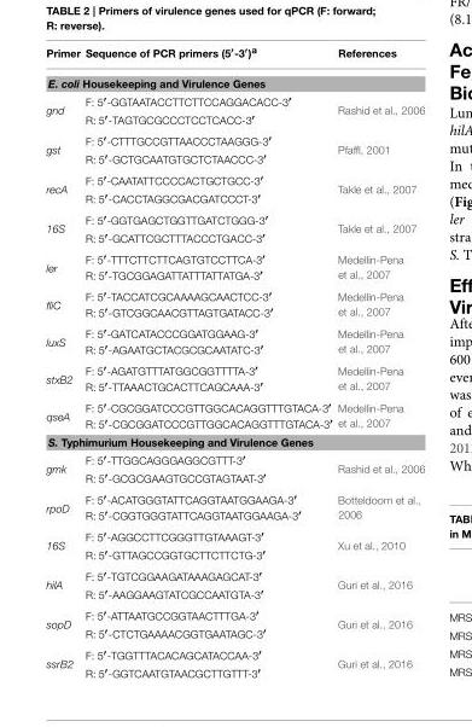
<table><thead><tr><td>Primer</td><td>Sequence of PCR primers (5′-3′)<sup>a</sup></td><td>References</td></tr></thead><tbody><tr><td colspan="3">E. coli Housekeeping and Virulence Genes</td></tr><tr><td rowspan="2">gnd</td><td>F: 5′-GGTAATACCTTCTTCCAGGACACC-3′</td><td rowspan="2">Rashid et al., 2006</td></tr><tr><td>R: 5′-TAGTGCGCCCTCCTCACC-3′</td></tr><tr><td rowspan="2">gst</td><td>F: 5′-CTTTGCCGTTAACCCTAAGGG-3′</td><td rowspan="2">Pfaffl, 2001</td></tr><tr><td>R: 5′-GCTGCAATGTGCTCTAACCC-3′</td></tr><tr><td rowspan="2">recA</td><td>F: 5′-CAATATTCCCCACTGCTGCC-3′</td><td rowspan="2">Takle et al., 2007</td></tr><tr><td>R: 5′-CACCTAGGCGACGATCCCT-3′</td></tr><tr><td rowspan="2">16S</td><td>F: 5′-GGTGAGCTGGTTGATCTGGG-3′</td><td rowspan="2">Takle et al., 2007</td></tr><tr><td>R: 5′-GCATTCGCTTTACCCTGACC-3′</td></tr><tr><td rowspan="2">ler</td><td>F: 5′-TTTCTTCTTCAGTGTCCTTCA-3′</td><td rowspan="2">Medellin-Pena et al., 2007</td></tr><tr><td>R: 5′-TGCGGAGATTATTTATTATGA-3′</td></tr><tr><td rowspan="2">fliC</td><td>F: 5′-TACCATCGCAAAAGCAACTCC-3′</td><td rowspan="2">Medellin-Pena et al., 2007</td></tr><tr><td>R: 5′-GTCGGCAACGTTAGTGATACC-3′</td></tr><tr><td rowspan="2">luxS</td><td>F: 5′-GATCATACCCGGATGGAAG-3′</td><td rowspan="2">Medellin-Pena et al., 2007</td></tr><tr><td>R: 5′-AGAATGCTACGCGCAATATC-3′</td></tr><tr><td rowspan="2">stxB2</td><td>F: 5′-AGATGTTTATGGCGGTTTTA-3′</td><td rowspan="2">Medellin-Pena et al., 2007</td></tr><tr><td>R: 5′-TTAAACTGCACTTCAGCAAA-3′</td></tr><tr><td rowspan="2">qseA</td><td>F: 5′-CGCGGATCCCGTTGGCACAGGTTTGTACA-3′</td><td rowspan="2">Medellin-Pena et al., 2007</td></tr><tr><td>R: 5′-CGCGGATCCCGTTGGCACAGGTTTGTACA-3′</td></tr><tr><td colspan="3">S. Typhimurium Housekeeping and Virulence Genes</td></tr><tr><td rowspan="2">gmk</td><td>F: 5′-TTGGCAGGGAGGCGTTT-3′</td><td rowspan="2">Rashid et al., 2006</td></tr><tr><td>R: 5′-GCGCGAAGTGCCGTAGTAAT-3′</td></tr><tr><td rowspan="2">rpoD</td><td>F: 5′-ACATGGGTATTCAGGTAATGGAAGA-3′</td><td rowspan="2">Botteldoorn et al., 2006</td></tr><tr><td>R: 5′-CGGTGGGTATTCAGGTAATGGAAGA-3′</td></tr><tr><td rowspan="2">16S</td><td>F: 5′-AGGCCTTCGGGTTGTAAAGT-3′</td><td rowspan="2">Xu et al., 2010</td></tr><tr><td>R: 5′-GTTAGCCGGTGCTTCTTCTG-3′</td></tr><tr><td rowspan="2">hilA</td><td>F: 5′-TGTCGGAAGATAAAGAGCAT-3′</td><td rowspan="2">Guri et al., 2016</td></tr><tr><td>R: 5′-AAGGAAGTATCGCCAATGTA-3′</td></tr><tr><td rowspan="2">sopD</td><td>F: 5′-ATTAATGCCGGTAACTTTGA-3′</td><td rowspan="2">Guri et al., 2016</td></tr><tr><td>R: 5′-CTCTGAAAACGGTGAATAGC-3′</td></tr><tr><td rowspan="2">ssrB2</td><td>F: 5′-TGGTTTACACAGCATACCAA-3′</td><td rowspan="2">Guri et al., 2016</td></tr><tr><td>R: 5′-GGTCAATGTAACGCTTGTTT-3′</td></tr></tbody></table>